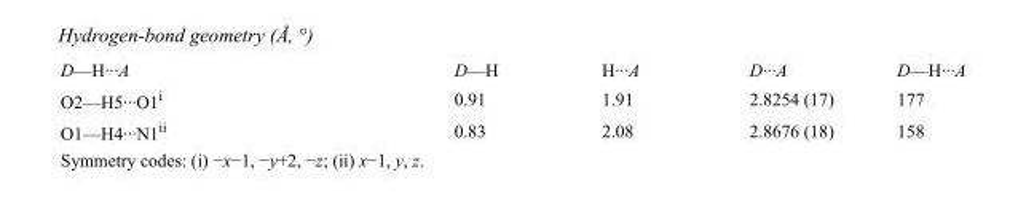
<table><tbody><tr><td>D—H···A</td><td>D—H</td><td>H···A</td><td>D···A</td><td>D—H···A</td></tr><tr><td>O2—H5···O1<sup>i</sup></td><td>0.91</td><td>1.91</td><td>2.8254 (17)</td><td>177</td></tr><tr><td>O1—H4···N1<sup>ii</sup></td><td>0.83</td><td>2.08</td><td>2.8676 (18)</td><td>158</td></tr></tbody></table>